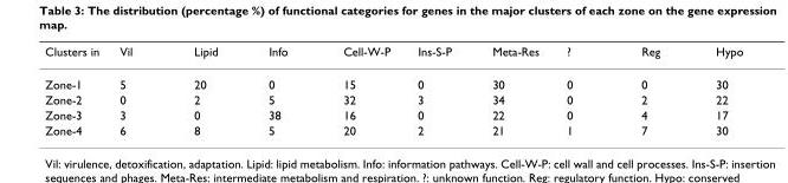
<table><thead><tr><td>Clusters in</td><td>Vil</td><td>Lipid</td><td>Info</td><td>Cell-W-P</td><td>Ins-S-P</td><td>Meta-Res</td><td>?</td><td>Reg</td><td>Hypo</td></tr></thead><tbody><tr><td>Zone-1</td><td>5</td><td>20</td><td>0</td><td>15</td><td>0</td><td>30</td><td>0</td><td>0</td><td>30</td></tr><tr><td>Zone-2</td><td>0</td><td>2</td><td>5</td><td>32</td><td>3</td><td>34</td><td>0</td><td>2</td><td>22</td></tr><tr><td>Zone-3</td><td>3</td><td>0</td><td>38</td><td>16</td><td>0</td><td>22</td><td>0</td><td>4</td><td>17</td></tr><tr><td>Zone-4</td><td>6</td><td>8</td><td>5</td><td>20</td><td>2</td><td>21</td><td>1</td><td>7</td><td>30</td></tr></tbody></table>